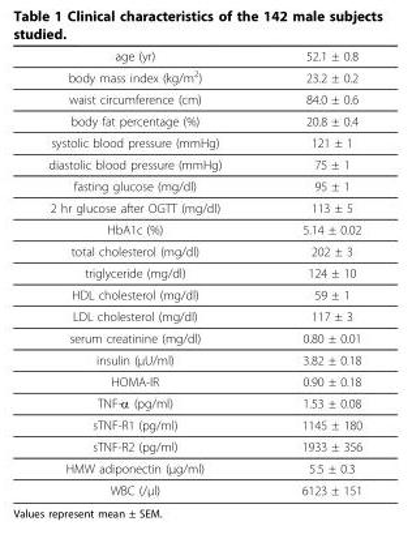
<table><thead><tr><td>age (yr)</td><td>52.1 ± 0.8</td></tr></thead><tbody><tr><td>body mass index (kg/m<sup>2</sup>)</td><td>23.2 ± 0.2</td></tr><tr><td>waist circumference (cm)</td><td>84.0 ± 0.6</td></tr><tr><td>body fat percentage (%)</td><td>20.8 ± 0.4</td></tr><tr><td>systolic blood pressure (mmHg)</td><td>121 ± 1</td></tr><tr><td>diastolic blood pressure (mmHg)</td><td>75 ± 1</td></tr><tr><td>fasting glucose (mg/dl)</td><td>95 ± 1</td></tr><tr><td>2 hr glucose after OGTT (mg/dl)</td><td>113 ± 5</td></tr><tr><td>HbA1c (%)</td><td>5.14 ± 0.02</td></tr><tr><td>total cholesterol (mg/dl)</td><td>202 ± 3</td></tr><tr><td>triglyceride (mg/dl)</td><td>124 ± 10</td></tr><tr><td>HDL cholesterol (mg/dl)</td><td>59 ± 1</td></tr><tr><td>LDL cholesterol (mg/dl)</td><td>117 ± 3</td></tr><tr><td>serum creatinine (mg/dl)</td><td>0.80 ± 0.01</td></tr><tr><td>insulin (μU/ml)</td><td>3.82 ± 0.18</td></tr><tr><td>HOMA-IR</td><td>0.90 ± 0.18</td></tr><tr><td>TNF-α (pg/ml)</td><td>1.53 ± 0.08</td></tr><tr><td>sTNF-R1 (pg/ml)</td><td>1145 ± 180</td></tr><tr><td>sTNF-R2 (pg/ml)</td><td>1933 ± 356</td></tr><tr><td>HMW adiponectin (μg/ml)</td><td>5.5 ± 0.3</td></tr><tr><td>WBC (/μl)</td><td>6123 ± 151</td></tr></tbody></table>